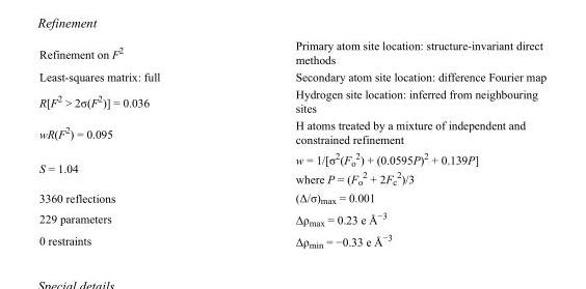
<table><tbody><tr><td>Refinement on F<sup>2</sup></td><td>Primary atom site location: structure-invariant direct methods</td></tr><tr><td>Least-squares matrix: full</td><td>Secondary atom site location: difference Fourier map</td></tr><tr><td>R[F<sup>2</sup> &gt; 2σ(F<sup>2</sup>)] = 0.036</td><td>Hydrogen site location: inferred from neighbouring sites</td></tr><tr><td>wR(F<sup>2</sup>) = 0.095</td><td>H atoms treated by a mixture of independent and constrained refinement</td></tr><tr><td>S = 1.04</td><td>w = 1/[σ<sup>2</sup>(F<sub>o</sub> <sup>2</sup>) + (0.0595P)<sup>2</sup> + 0.139P] where P = (F<sub>o</sub> <sup>2</sup> + 2F<sub>c</sub> <sup>2</sup>)/3</td></tr><tr><td>3360 reflections</td><td>(Δ/σ)<sub>max</sub> = 0.001</td></tr><tr><td>229 parameters</td><td>Δρ<sub>max</sub> = 0.23 e Å<sup>−3</sup></td></tr><tr><td>0 restraints</td><td>Δρ<sub>min</sub> = −0.33 e Å<sup>−3</sup></td></tr></tbody></table>